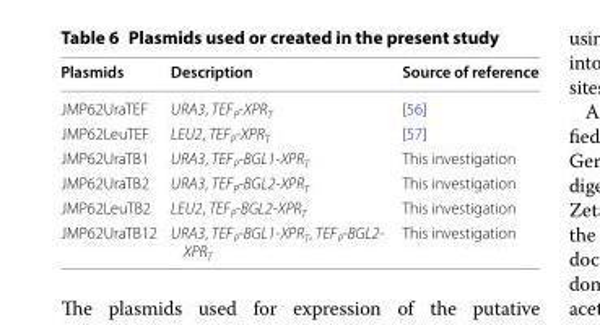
<table><thead><tr><td>Plasmids</td><td>Description</td><td>Source of reference</td></tr></thead><tbody><tr><td>JMP62UraTEF</td><td>URA3, TEF<sub>P</sub>‑XPR<sub>T</sub></td><td>[56]</td></tr><tr><td>JMP62LeuTEF</td><td>LEU2, TEF<sub>P</sub>‑XPR<sub>T</sub></td><td>[57]</td></tr><tr><td>JMP62UraTB1</td><td>URA3, TEF<sub>P</sub>‑BGL1‑XPR<sub>T</sub></td><td>This investigation</td></tr><tr><td>JMP62UraTB2</td><td>URA3, TEF<sub>P</sub>‑BGL2‑XPR<sub>T</sub></td><td>This investigation</td></tr><tr><td>JMP62LeuTB2</td><td>LEU2, TEF<sub>P</sub>‑BGL2‑XPR<sub>T</sub></td><td>This investigation</td></tr><tr><td>JMP62UraTB12</td><td>URA3, TEF<sub>P</sub>‑BGL1‑XPR<sub>T</sub>, TEF<sub>P</sub>‑BGL2‑ XPR<sub>T</sub></td><td>This investigation</td></tr></tbody></table>